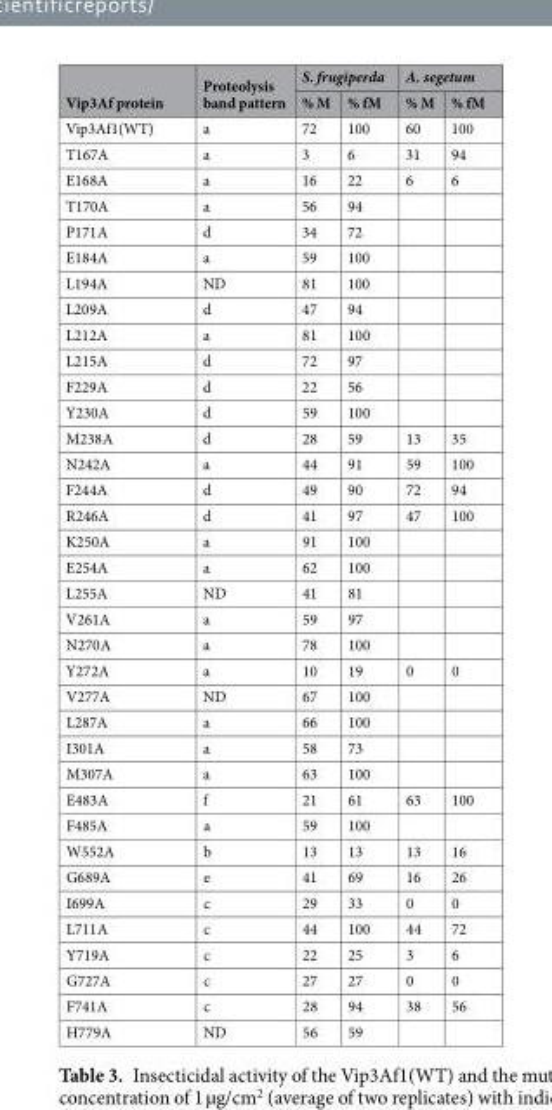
<table><thead><tr><td rowspan="2">Vip3Af protein</td><td rowspan="2">Proteolysis band pattern</td><td colspan="2">S. frugiperda</td><td colspan="2">A. segetum</td></tr><tr><td>% M</td><td>% fM</td><td>% M</td><td>% fM</td></tr></thead><tbody><tr><td>Vip3Af1(WT)</td><td>a</td><td>72</td><td>100</td><td>60</td><td>100</td></tr><tr><td>T167A</td><td>a</td><td>3</td><td>6</td><td>31</td><td>94</td></tr><tr><td>E168A</td><td>a</td><td>16</td><td>22</td><td>6</td><td>6</td></tr><tr><td>T170A</td><td>a</td><td>56</td><td>94</td><td></td><td></td></tr><tr><td>P171A</td><td>d</td><td>34</td><td>72</td><td></td><td></td></tr><tr><td>E184A</td><td>a</td><td>59</td><td>100</td><td></td><td></td></tr><tr><td>L194A</td><td>ND</td><td>81</td><td>100</td><td></td><td></td></tr><tr><td>L209A</td><td>d</td><td>47</td><td>94</td><td></td><td></td></tr><tr><td>L212A</td><td>a</td><td>81</td><td>100</td><td></td><td></td></tr><tr><td>L215A</td><td>d</td><td>72</td><td>97</td><td></td><td></td></tr><tr><td>F229A</td><td>d</td><td>22</td><td>56</td><td></td><td></td></tr><tr><td>Y230A</td><td>d</td><td>59</td><td>100</td><td></td><td></td></tr><tr><td>M238A</td><td>d</td><td>28</td><td>59</td><td>13</td><td>35</td></tr><tr><td>N242A</td><td>a</td><td>44</td><td>91</td><td>59</td><td>100</td></tr><tr><td>F244A</td><td>d</td><td>49</td><td>90</td><td>72</td><td>94</td></tr><tr><td>R246A</td><td>d</td><td>41</td><td>97</td><td>47</td><td>100</td></tr><tr><td>K250A</td><td>a</td><td>91</td><td>100</td><td></td><td></td></tr><tr><td>E254A</td><td>a</td><td>62</td><td>100</td><td></td><td></td></tr><tr><td>L255A</td><td>ND</td><td>41</td><td>81</td><td></td><td></td></tr><tr><td>V261A</td><td>a</td><td>59</td><td>97</td><td></td><td></td></tr><tr><td>N270A</td><td>a</td><td>78</td><td>100</td><td></td><td></td></tr><tr><td>Y272A</td><td>a</td><td>10</td><td>19</td><td>0</td><td>0</td></tr><tr><td>V277A</td><td>ND</td><td>67</td><td>100</td><td></td><td></td></tr><tr><td>L287A</td><td>a</td><td>66</td><td>100</td><td></td><td></td></tr><tr><td>I301A</td><td>a</td><td>58</td><td>73</td><td></td><td></td></tr><tr><td>M307A</td><td>a</td><td>63</td><td>100</td><td></td><td></td></tr><tr><td>E483A</td><td>f</td><td>21</td><td>61</td><td>63</td><td>100</td></tr><tr><td>F485A</td><td>a</td><td>59</td><td>100</td><td></td><td></td></tr><tr><td>W552A</td><td>b</td><td>13</td><td>13</td><td>13</td><td>16</td></tr><tr><td>G689A</td><td>e</td><td>41</td><td>69</td><td>16</td><td>26</td></tr><tr><td>I699A</td><td>c</td><td>29</td><td>33</td><td>0</td><td>0</td></tr><tr><td>L711A</td><td>c</td><td>44</td><td>100</td><td>44</td><td>72</td></tr><tr><td>Y719A</td><td>c</td><td>22</td><td>25</td><td>3</td><td>6</td></tr><tr><td>G727A</td><td>c</td><td>27</td><td>27</td><td>0</td><td>0</td></tr><tr><td>F741A</td><td>c</td><td>28</td><td>94</td><td>38</td><td>56</td></tr><tr><td>H779A</td><td>ND</td><td>56</td><td>59</td><td></td><td></td></tr></tbody></table>